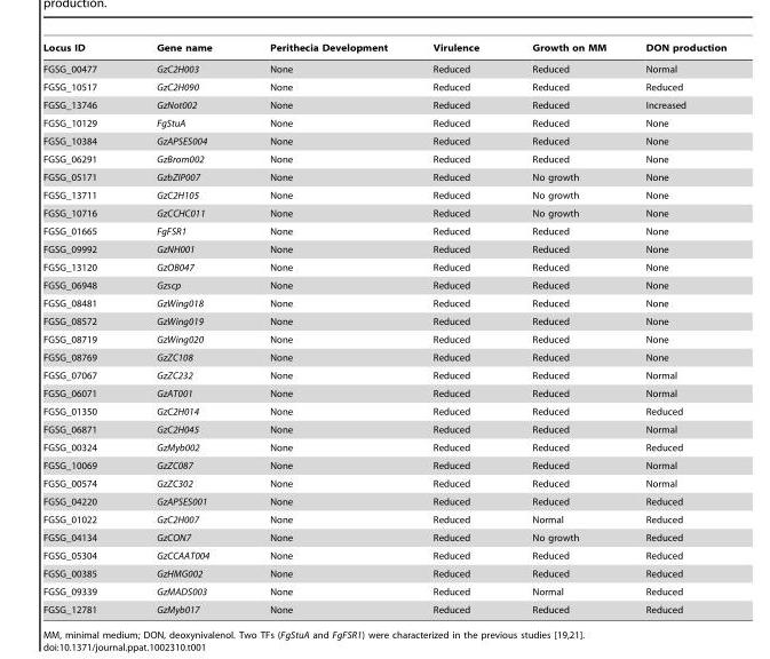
<table><thead><tr><td>Locus ID</td><td>Gene name</td><td>Perithecia Development</td><td>Virulence</td><td>Growth on MM</td><td>DON production</td></tr></thead><tbody><tr><td>FGSG_00477</td><td>GzC2H003</td><td>None</td><td>Reduced</td><td>Reduced</td><td>Normal</td></tr><tr><td>FGSG_10517</td><td>GzC2H090</td><td>None</td><td>Reduced</td><td>Reduced</td><td>Reduced</td></tr><tr><td>FGSG_13746</td><td>GzNot002</td><td>None</td><td>Reduced</td><td>Reduced</td><td>Increased</td></tr><tr><td>FGSG_10129</td><td>FgStuA</td><td>None</td><td>Reduced</td><td>Reduced</td><td>None</td></tr><tr><td>FGSG_10384</td><td>GzAPSES004</td><td>None</td><td>Reduced</td><td>Reduced</td><td>None</td></tr><tr><td>FGSG_06291</td><td>GzBrom002</td><td>None</td><td>Reduced</td><td>Reduced</td><td>None</td></tr><tr><td>FGSG_05171</td><td>GzbZIP007</td><td>None</td><td>Reduced</td><td>No growth</td><td>None</td></tr><tr><td>FGSG_13711</td><td>GzC2H105</td><td>None</td><td>Reduced</td><td>No growth</td><td>None</td></tr><tr><td>FGSG_10716</td><td>GzCCHC011</td><td>None</td><td>Reduced</td><td>No growth</td><td>None</td></tr><tr><td>FGSG_01665</td><td>FgFSR1</td><td>None</td><td>Reduced</td><td>Reduced</td><td>None</td></tr><tr><td>FGSG_09992</td><td>GzNH001</td><td>None</td><td>Reduced</td><td>Reduced</td><td>None</td></tr><tr><td>FGSG_13120</td><td>GzOB047</td><td>None</td><td>Reduced</td><td>Reduced</td><td>None</td></tr><tr><td>FGSG_06948</td><td>Gzscp</td><td>None</td><td>Reduced</td><td>Reduced</td><td>None</td></tr><tr><td>FGSG_08481</td><td>GzWing018</td><td>None</td><td>Reduced</td><td>Reduced</td><td>None</td></tr><tr><td>FGSG_08572</td><td>GzWing019</td><td>None</td><td>Reduced</td><td>Reduced</td><td>None</td></tr><tr><td>FGSG_08719</td><td>GzWing020</td><td>None</td><td>Reduced</td><td>Reduced</td><td>None</td></tr><tr><td>FGSG_08769</td><td>GzZC108</td><td>None</td><td>Reduced</td><td>Reduced</td><td>None</td></tr><tr><td>FGSG_07067</td><td>GzZC232</td><td>None</td><td>Reduced</td><td>Reduced</td><td>Normal</td></tr><tr><td>FGSG_06071</td><td>GzAT001</td><td>None</td><td>Reduced</td><td>Reduced</td><td>Normal</td></tr><tr><td>FGSG_01350</td><td>GzC2H014</td><td>None</td><td>Reduced</td><td>Reduced</td><td>Reduced</td></tr><tr><td>FGSG_06871</td><td>GzC2H045</td><td>None</td><td>Reduced</td><td>Reduced</td><td>Normal</td></tr><tr><td>FGSG_00324</td><td>GzMyb002</td><td>None</td><td>Reduced</td><td>Reduced</td><td>Reduced</td></tr><tr><td>FGSG_10069</td><td>GzZC087</td><td>None</td><td>Reduced</td><td>Reduced</td><td>Normal</td></tr><tr><td>FGSG_00574</td><td>GzZC302</td><td>None</td><td>Reduced</td><td>Reduced</td><td>Normal</td></tr><tr><td>FGSG_04220</td><td>GzAPSES001</td><td>None</td><td>Reduced</td><td>Reduced</td><td>Reduced</td></tr><tr><td>FGSG_01022</td><td>GzC2H007</td><td>None</td><td>Reduced</td><td>Normal</td><td>Reduced</td></tr><tr><td>FGSG_04134</td><td>GzCON7</td><td>None</td><td>Reduced</td><td>No growth</td><td>Reduced</td></tr><tr><td>FGSG_05304</td><td>GzCCAAT004</td><td>None</td><td>Reduced</td><td>Reduced</td><td>Reduced</td></tr><tr><td>FGSG_00385</td><td>GzHMG002</td><td>None</td><td>Reduced</td><td>Reduced</td><td>Reduced</td></tr><tr><td>FGSG_09339</td><td>GzMADS003</td><td>None</td><td>Reduced</td><td>Normal</td><td>Reduced</td></tr><tr><td>FGSG_12781</td><td>GzMyb017</td><td>None</td><td>Reduced</td><td>Reduced</td><td>Reduced</td></tr></tbody></table>